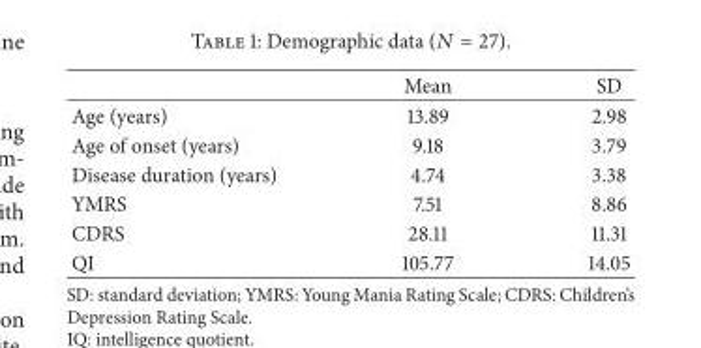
<table><thead><tr><td></td><td>Mean</td><td>SD</td></tr></thead><tbody><tr><td>Age (years)</td><td>13.89</td><td>2.98</td></tr><tr><td>Age of onset (years)</td><td>9.18</td><td>3.79</td></tr><tr><td>Disease duration (years)</td><td>4.74</td><td>3.38</td></tr><tr><td>YMRS</td><td>7.51</td><td>8.86</td></tr><tr><td>CDRS</td><td>28.11</td><td>11.31</td></tr><tr><td>QI</td><td>105.77</td><td>14.05</td></tr></tbody></table>